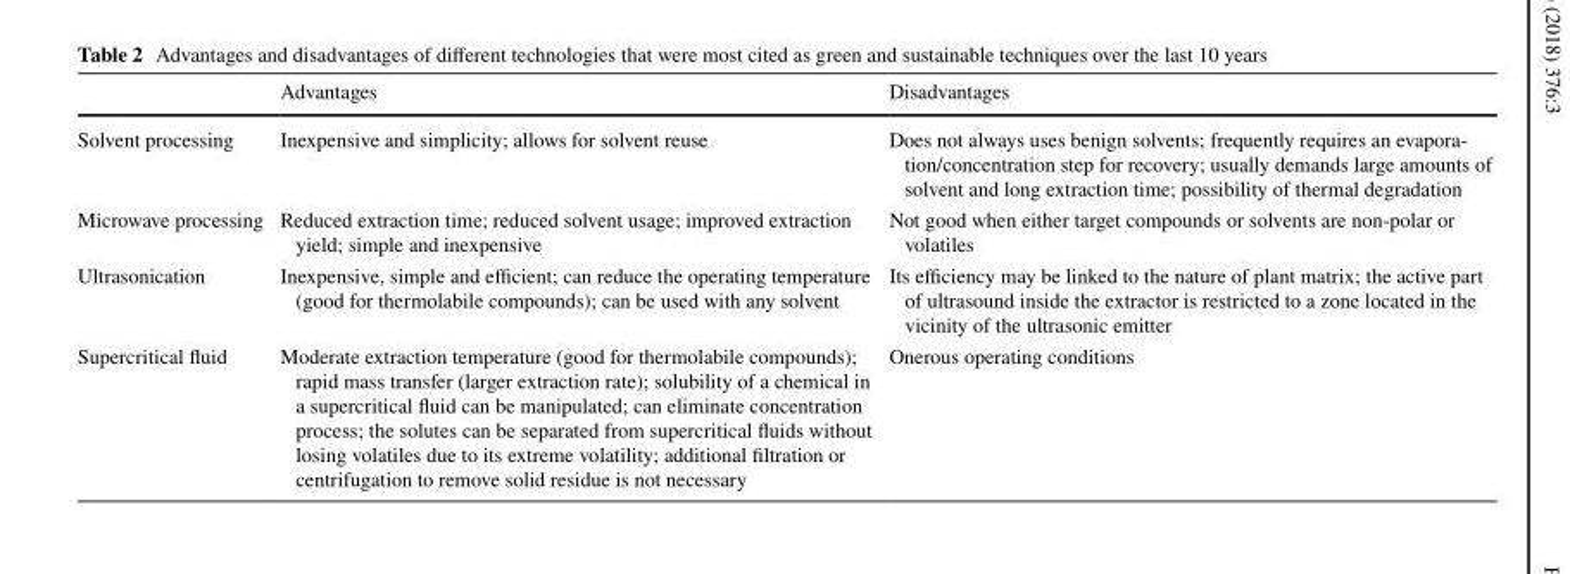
<table><thead><tr><td></td><td>Advantages</td><td>Disadvantages</td></tr></thead><tbody><tr><td>Solvent processing</td><td>Inexpensive and simplicity; allows for solvent reuse</td><td>Does not always uses benign solvents; frequently requires an evapora- tion/concentration step for recovery; usually demands large amounts of solvent and long extraction time; possibility of thermal degradation</td></tr><tr><td>Microwave processing</td><td>Reduced extraction time; reduced solvent usage; improved extraction yield; simple and inexpensive</td><td>Not good when either target compounds or solvents are non-polar or volatiles</td></tr><tr><td>Ultrasonication</td><td>Inexpensive, simple and efficient; can reduce the operating temperature (good for thermolabile compounds); can be used with any solvent</td><td>Its efficiency may be linked to the nature of plant matrix; the active part of ultrasound inside the extractor is restricted to a zone located in the vicinity of the ultrasonic emitter</td></tr><tr><td>Supercritical fluid</td><td>Moderate extraction temperature (good for thermolabile compounds); rapid mass transfer (larger extraction rate); solubility of a chemical in a supercritical fluid can be manipulated; can eliminate concentration process; the solutes can be separated from supercritical fluids without losing volatiles due to its extreme volatility; additional filtration or centrifugation to remove solid residue is not necessary</td><td>Onerous operating conditions</td></tr></tbody></table>